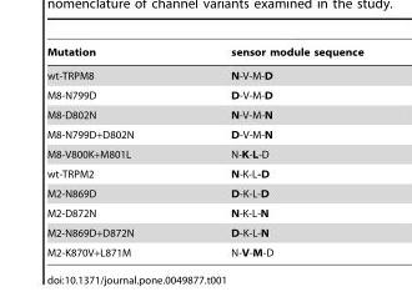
<table><thead><tr><td>Mutation</td><td>sensor module sequence</td></tr></thead><tbody><tr><td>wt-TRPM8</td><td>N-V-M-D</td></tr><tr><td>M8-N799D</td><td>D-V-M-D</td></tr><tr><td>M8-D802N</td><td>N-V-M-N</td></tr><tr><td>M8-N799D+D802N</td><td>D-V-M-N</td></tr><tr><td>M8-V800K+M801L</td><td>N-K-L-D</td></tr><tr><td>wt-TRPM2</td><td>N-K-L-D</td></tr><tr><td>M2-N869D</td><td>D-K-L-D</td></tr><tr><td>M2-D872N</td><td>N-K-L-N</td></tr><tr><td>M2-N869D+D872N</td><td>D-K-L-N</td></tr><tr><td>M2-K870V+L871M</td><td>N-V-M-D</td></tr></tbody></table>